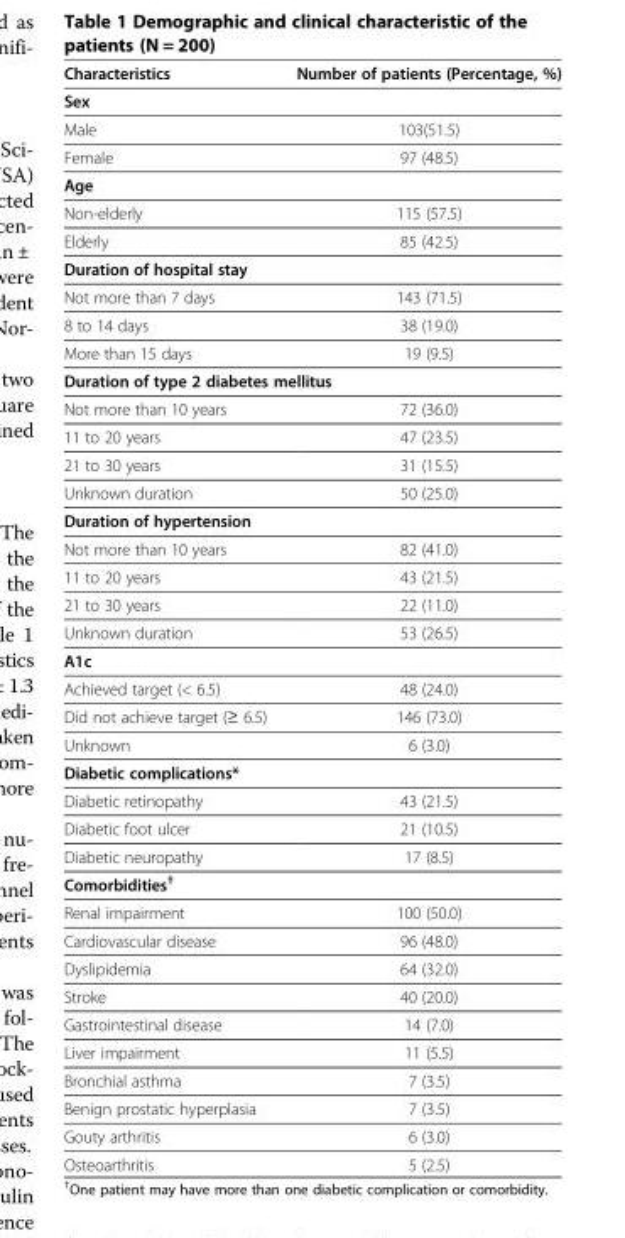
<table><thead><tr><td>Characteristics</td><td>Number of patients (Percentage, %)</td></tr></thead><tbody><tr><td colspan="2">Sex</td></tr><tr><td>Male</td><td>103(51.5)</td></tr><tr><td>Female</td><td>97 (48.5)</td></tr><tr><td colspan="2">Age</td></tr><tr><td>Non-elderly</td><td>115 (57.5)</td></tr><tr><td>Elderly</td><td>85 (42.5)</td></tr><tr><td colspan="2">Duration of hospital stay</td></tr><tr><td>Not more than 7 days</td><td>143 (71.5)</td></tr><tr><td>8 to 14 days</td><td>38 (19.0)</td></tr><tr><td>More than 15 days</td><td>19 (9.5)</td></tr><tr><td colspan="2">Duration of type 2 diabetes mellitus</td></tr><tr><td>Not more than 10 years</td><td>72 (36.0)</td></tr><tr><td>11 to 20 years</td><td>47 (23.5)</td></tr><tr><td>21 to 30 years</td><td>31 (15.5)</td></tr><tr><td>Unknown duration</td><td>50 (25.0)</td></tr><tr><td colspan="2">Duration of hypertension</td></tr><tr><td>Not more than 10 years</td><td>82 (41.0)</td></tr><tr><td>11 to 20 years</td><td>43 (21.5)</td></tr><tr><td>21 to 30 years</td><td>22 (11.0)</td></tr><tr><td>Unknown duration</td><td>53 (26.5)</td></tr><tr><td colspan="2">A1c</td></tr><tr><td>Achieved target (&lt; 6.5)</td><td>48 (24.0)</td></tr><tr><td>Did not achieve target (≥ 6.5)</td><td>146 (73.0)</td></tr><tr><td>Unknown</td><td>6 (3.0)</td></tr><tr><td colspan="2">Diabetic complications*</td></tr><tr><td>Diabetic retinopathy</td><td>43 (21.5)</td></tr><tr><td>Diabetic foot ulcer</td><td>21 (10.5)</td></tr><tr><td>Diabetic neuropathy</td><td>17 (8.5)</td></tr><tr><td colspan="2">Comorbidities<sup>†</sup></td></tr><tr><td>Renal impairment</td><td>100 (50.0)</td></tr><tr><td>Cardiovascular disease</td><td>96 (48.0)</td></tr><tr><td>Dyslipidemia</td><td>64 (32.0)</td></tr><tr><td>Stroke</td><td>40 (20.0)</td></tr><tr><td>Gastrointestinal disease</td><td>14 (7.0)</td></tr><tr><td>Liver impairment</td><td>11 (5.5)</td></tr><tr><td>Bronchial asthma</td><td>7 (3.5)</td></tr><tr><td>Benign prostatic hyperplasia</td><td>7 (3.5)</td></tr><tr><td>Gouty arthritis</td><td>6 (3.0)</td></tr><tr><td>Osteoarthritis</td><td>5 (2.5)</td></tr></tbody></table>